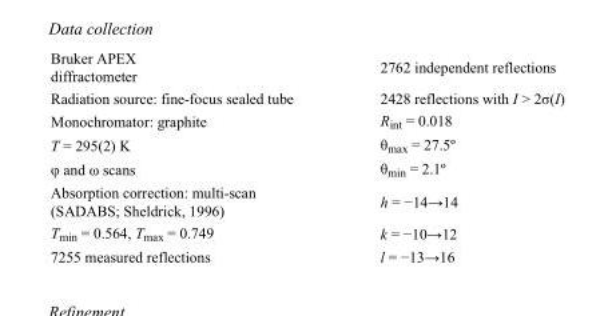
<table><tbody><tr><td>Bruker APEX diffractometer</td><td>2762 independent reflections</td></tr><tr><td>Radiation source: fine-focus sealed tube</td><td>2428 reflections with I &gt; 2σ(I)</td></tr><tr><td>Monochromator: graphite</td><td>R<sub>int</sub> = 0.018</td></tr><tr><td>T = 295(2) K</td><td>θ<sub>max</sub> = 27.5º</td></tr><tr><td>φ and ω scans</td><td>θ<sub>min</sub> = 2.1º</td></tr><tr><td>Absorption correction: multi-scan (SADABS; Sheldrick, 1996)</td><td>h = −14→14</td></tr><tr><td>T<sub>min</sub> = 0.564, T<sub>max</sub> = 0.749</td><td>k = −10→12</td></tr><tr><td>7255 measured reflections</td><td>l = −13→16</td></tr></tbody></table>